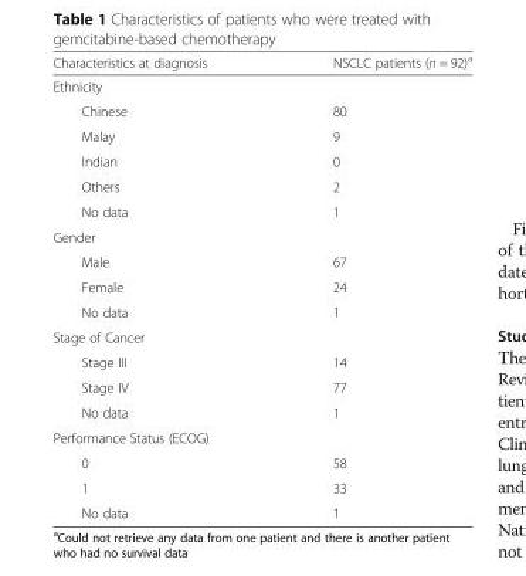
<table><thead><tr><td>Characteristics at diagnosis</td><td>NSCLC patients (n = 92)<sup>a</sup></td></tr></thead><tbody><tr><td colspan="2">Ethnicity</td></tr><tr><td>Chinese</td><td>80</td></tr><tr><td>Malay</td><td>9</td></tr><tr><td>Indian</td><td>0</td></tr><tr><td>Others</td><td>2</td></tr><tr><td>No data</td><td>1</td></tr><tr><td colspan="2">Gender</td></tr><tr><td>Male</td><td>67</td></tr><tr><td>Female</td><td>24</td></tr><tr><td>No data</td><td>1</td></tr><tr><td colspan="2">Stage of Cancer</td></tr><tr><td>Stage III</td><td>14</td></tr><tr><td>Stage IV</td><td>77</td></tr><tr><td>No data</td><td>1</td></tr><tr><td colspan="2">Performance Status (ECOG)</td></tr><tr><td>0</td><td>58</td></tr><tr><td>1</td><td>33</td></tr><tr><td>No data</td><td>1</td></tr></tbody></table>